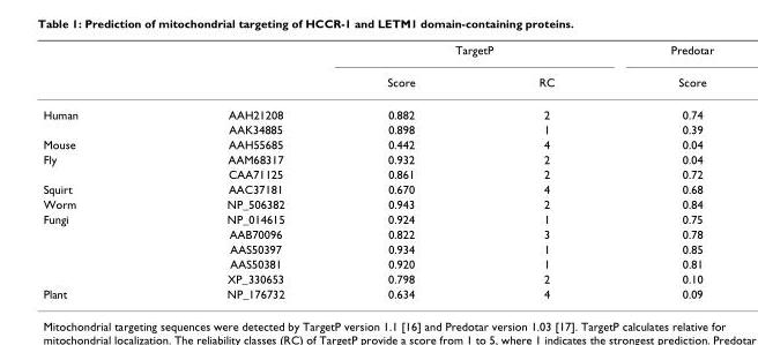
<table><thead><tr><td rowspan="2"></td><td rowspan="2"></td><td colspan="2">TargetP</td><td rowspan="2">Predotar Score</td></tr><tr><td>Score</td><td>RC</td></tr></thead><tbody><tr><td rowspan="2">Human</td><td>AAH21208</td><td>0.882</td><td>2</td><td>0.74</td></tr><tr><td>AAK34885</td><td>0.898</td><td>1</td><td>0.39</td></tr><tr><td>Mouse</td><td>AAH55685</td><td>0.442</td><td>4</td><td>0.04</td></tr><tr><td rowspan="2">Fly</td><td>AAM68317</td><td>0.932</td><td>2</td><td>0.04</td></tr><tr><td>CAA71125</td><td>0.861</td><td>2</td><td>0.72</td></tr><tr><td>Squirt</td><td>AAC37181</td><td>0.670</td><td>4</td><td>0.68</td></tr><tr><td>Worm</td><td>NP_506382</td><td>0.943</td><td>2</td><td>0.84</td></tr><tr><td rowspan="5">Fungi</td><td>NP_014615</td><td>0.924</td><td>1</td><td>0.75</td></tr><tr><td>AAB70096</td><td>0.822</td><td>3</td><td>0.78</td></tr><tr><td>AAS50397</td><td>0.934</td><td>1</td><td>0.85</td></tr><tr><td>AAS50381</td><td>0.920</td><td>1</td><td>0.81</td></tr><tr><td>XP_330653</td><td>0.798</td><td>2</td><td>0.10</td></tr><tr><td>Plant</td><td>NP_176732</td><td>0.634</td><td>4</td><td>0.09</td></tr></tbody></table>